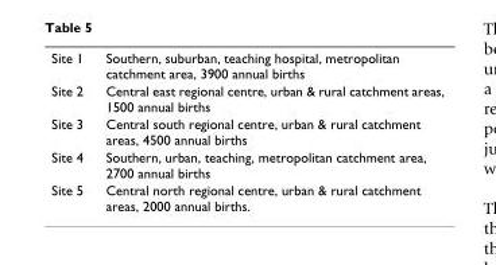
<table><tbody><tr><td>Site 1</td><td>Southern, suburban, teaching hospital, metropolitan catchment area, 3900 annual births</td></tr><tr><td>Site 2</td><td>Central east regional centre, urban &amp; rural catchment areas, 1500 annual births</td></tr><tr><td>Site 3</td><td>Central south regional centre, urban &amp; rural catchment areas, 4500 annual births</td></tr><tr><td>Site 4</td><td>Southern, urban, teaching, metropolitan catchment area, 2700 annual births</td></tr><tr><td>Site 5</td><td>Central north regional centre, urban &amp; rural catchment areas, 2000 annual births.</td></tr></tbody></table>